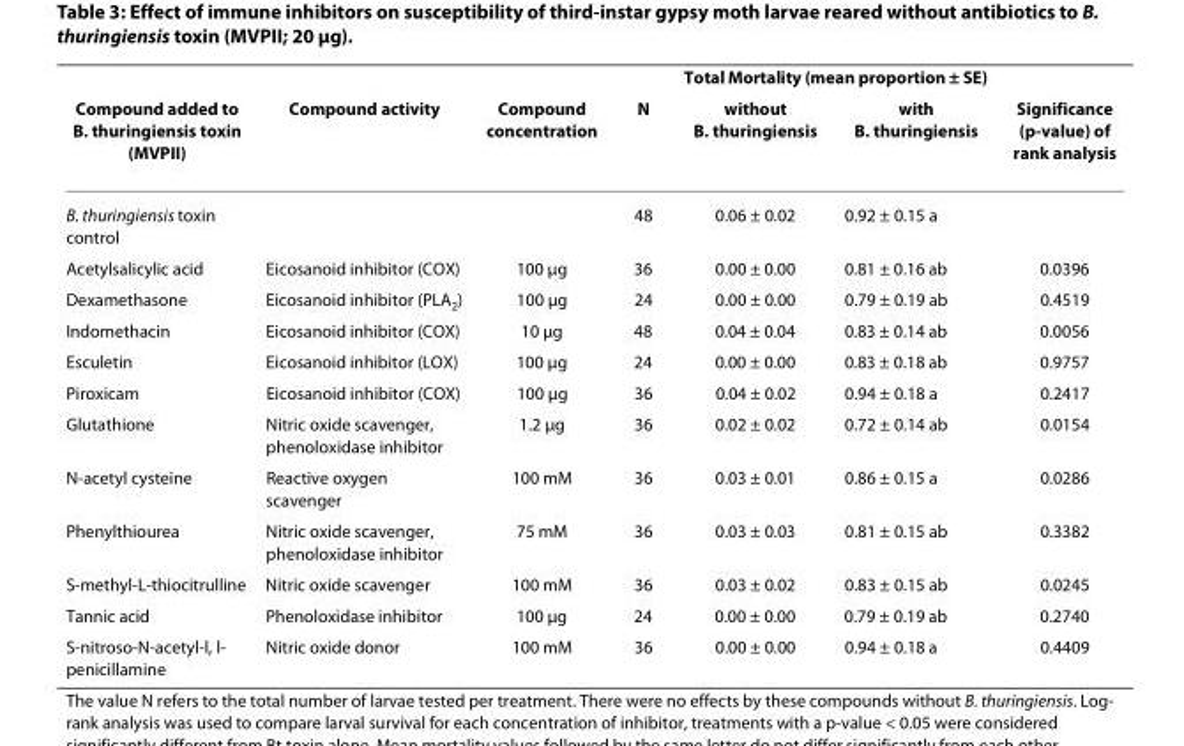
<table><thead><tr><td rowspan="2">Compound added to B. thuringiensis toxin (MVPII)</td><td rowspan="2">Compound activity</td><td rowspan="2">Compound concentration</td><td rowspan="2">N</td><td colspan="2">Total Mortality (mean proportion ± SE)</td><td rowspan="2">Significance (p-value) of rank analysis</td></tr><tr><td>without B. thuringiensis</td><td>with B. thuringiensis</td></tr></thead><tbody><tr><td>B. thuringiensis toxin control</td><td></td><td></td><td>48</td><td>0.06 ± 0.02</td><td>0.92 ± 0.15 a</td><td></td></tr><tr><td>Acetylsalicylic acid</td><td>Eicosanoid inhibitor (COX)</td><td>100 μg</td><td>36</td><td>0.00 ± 0.00</td><td>0.81 ± 0.16 ab</td><td>0.0396</td></tr><tr><td>Dexamethasone</td><td>Eicosanoid inhibitor (PLA<sub>2</sub>)</td><td>100 μg</td><td>24</td><td>0.00 ± 0.00</td><td>0.79 ± 0.19 ab</td><td>0.4519</td></tr><tr><td>Indomethacin</td><td>Eicosanoid inhibitor (COX)</td><td>10 μg</td><td>48</td><td>0.04 ± 0.04</td><td>0.83 ± 0.14 ab</td><td>0.0056</td></tr><tr><td>Esculetin</td><td>Eicosanoid inhibitor (LOX)</td><td>100 μg</td><td>24</td><td>0.00 ± 0.00</td><td>0.83 ± 0.18 ab</td><td>0.9757</td></tr><tr><td>Piroxicam</td><td>Eicosanoid inhibitor (COX)</td><td>100 μg</td><td>36</td><td>0.04 ± 0.02</td><td>0.94 ± 0.18 a</td><td>0.2417</td></tr><tr><td>Glutathione</td><td>Nitric oxide scavenger, phenoloxidase inhibitor</td><td>1.2 μg</td><td>36</td><td>0.02 ± 0.02</td><td>0.72 ± 0.14 ab</td><td>0.0154</td></tr><tr><td>N-acetyl cysteine</td><td>Reactive oxygen scavenger</td><td>100 mM</td><td>36</td><td>0.03 ± 0.01</td><td>0.86 ± 0.15 a</td><td>0.0286</td></tr><tr><td>Phenylthiourea</td><td>Nitric oxide scavenger, phenoloxidase inhibitor</td><td>75 mM</td><td>36</td><td>0.03 ± 0.03</td><td>0.81 ± 0.15 ab</td><td>0.3382</td></tr><tr><td>S-methyl-L-thiocitrulline</td><td>Nitric oxide scavenger</td><td>100 mM</td><td>36</td><td>0.03 ± 0.02</td><td>0.83 ± 0.15 ab</td><td>0.0245</td></tr><tr><td>Tannic acid</td><td>Phenoloxidase inhibitor</td><td>100 μg</td><td>24</td><td>0.00 ± 0.00</td><td>0.79 ± 0.19 ab</td><td>0.2740</td></tr><tr><td>S-nitroso-N-acetyl-l, l- penicillamine</td><td>Nitric oxide donor</td><td>100 mM</td><td>36</td><td>0.00 ± 0.00</td><td>0.94 ± 0.18 a</td><td>0.4409</td></tr></tbody></table>